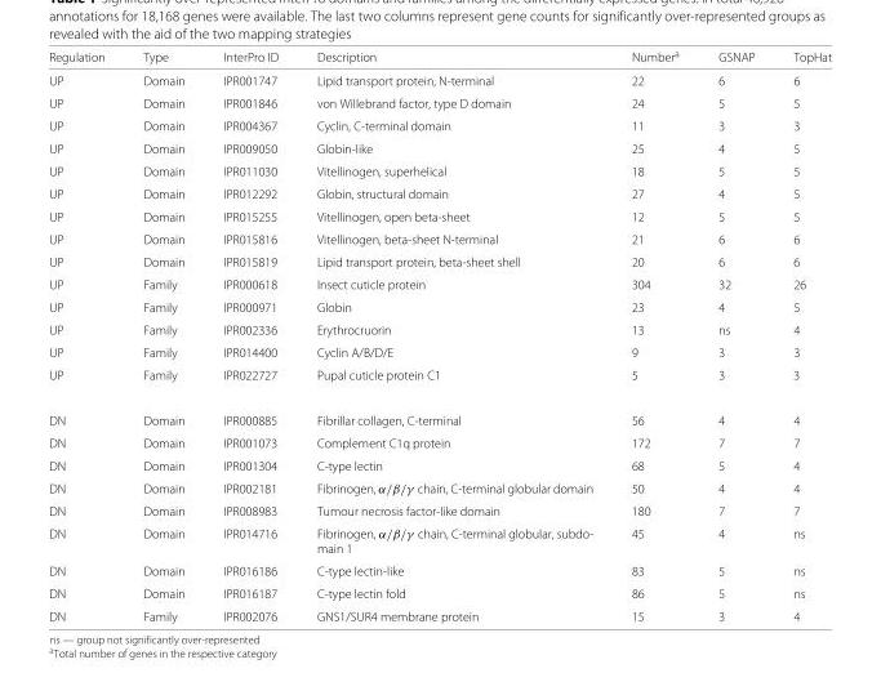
<table><thead><tr><td>Regulation</td><td>Type</td><td>InterPro ID</td><td>Description</td><td>Number<sup>a</sup></td><td>GSNAP</td><td>TopHat</td></tr></thead><tbody><tr><td>UP</td><td>Domain</td><td>IPR001747</td><td>Lipid transport protein, N-terminal</td><td>22</td><td>6</td><td>6</td></tr><tr><td>UP</td><td>Domain</td><td>IPR001846</td><td>von Willebrand factor, type D domain</td><td>24</td><td>5</td><td>5</td></tr><tr><td>UP</td><td>Domain</td><td>IPR004367</td><td>Cyclin, C-terminal domain</td><td>11</td><td>3</td><td>3</td></tr><tr><td>UP</td><td>Domain</td><td>IPR009050</td><td>Globin-like</td><td>25</td><td>4</td><td>5</td></tr><tr><td>UP</td><td>Domain</td><td>IPR011030</td><td>Vitellinogen, superhelical</td><td>18</td><td>5</td><td>5</td></tr><tr><td>UP</td><td>Domain</td><td>IPR012292</td><td>Globin, structural domain</td><td>27</td><td>4</td><td>5</td></tr><tr><td>UP</td><td>Domain</td><td>IPR015255</td><td>Vitellinogen, open beta-sheet</td><td>12</td><td>5</td><td>5</td></tr><tr><td>UP</td><td>Domain</td><td>IPR015816</td><td>Vitellinogen, beta-sheet N-terminal</td><td>21</td><td>6</td><td>6</td></tr><tr><td>UP</td><td>Domain</td><td>IPR015819</td><td>Lipid transport protein, beta-sheet shell</td><td>20</td><td>6</td><td>6</td></tr><tr><td>UP</td><td>Family</td><td>IPR000618</td><td>Insect cuticle protein</td><td>304</td><td>32</td><td>26</td></tr><tr><td>UP</td><td>Family</td><td>IPR000971</td><td>Globin</td><td>23</td><td>4</td><td>5</td></tr><tr><td>UP</td><td>Family</td><td>IPR002336</td><td>Erythrocruorin</td><td>13</td><td>ns</td><td>4</td></tr><tr><td>UP</td><td>Family</td><td>IPR014400</td><td>Cyclin A/B/D/E</td><td>9</td><td>3</td><td>3</td></tr><tr><td>UP</td><td>Family</td><td>IPR022727</td><td>Pupal cuticle protein C1</td><td>5</td><td>3</td><td>3</td></tr><tr><td>DN</td><td>Domain</td><td>IPR000885</td><td>Fibrillar collagen, C-terminal</td><td>56</td><td>4</td><td>4</td></tr><tr><td>DN</td><td>Domain</td><td>IPR001073</td><td>Complement C1q protein</td><td>172</td><td>7</td><td>7</td></tr><tr><td>DN</td><td>Domain</td><td>IPR001304</td><td>C-type lectin</td><td>68</td><td>5</td><td>4</td></tr><tr><td>DN</td><td>Domain</td><td>IPR002181</td><td>Fibrinogen, α/β/γ chain, C-terminal globular domain</td><td>50</td><td>4</td><td>4</td></tr><tr><td>DN</td><td>Domain</td><td>IPR008983</td><td>Tumour necrosis factor-like domain</td><td>180</td><td>7</td><td>7</td></tr><tr><td>DN</td><td>Domain</td><td>IPR014716</td><td>Fibrinogen, α/β/γ chain, C-terminal globular, subdo- main 1</td><td>45</td><td>4</td><td>ns</td></tr><tr><td>DN</td><td>Domain</td><td>IPR016186</td><td>C-type lectin-like</td><td>83</td><td>5</td><td>ns</td></tr><tr><td>DN</td><td>Domain</td><td>IPR016187</td><td>C-type lectin fold</td><td>86</td><td>5</td><td>ns</td></tr><tr><td>DN</td><td>Family</td><td>IPR002076</td><td>GNS1/SUR4 membrane protein</td><td>15</td><td>3</td><td>4</td></tr></tbody></table>